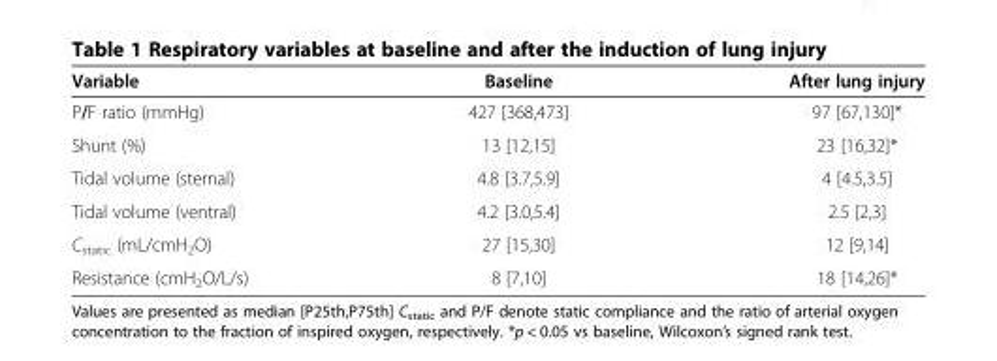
<table><thead><tr><td>Variable</td><td>Baseline</td><td>After lung injury</td></tr></thead><tbody><tr><td>P/F ratio (mmHg)</td><td>427 [368,473]</td><td>97 [67,130]*</td></tr><tr><td>Shunt (%)</td><td>13 [12,15]</td><td>23 [16,32]*</td></tr><tr><td>Tidal volume (sternal)</td><td>4.8 [3.7,5.9]</td><td>4 [4.5,3.5]</td></tr><tr><td>Tidal volume (ventral)</td><td>4.2 [3.0,5.4]</td><td>2.5 [2,3]</td></tr><tr><td>C<sub>static</sub> (mL/cmH<sub>2</sub>O)</td><td>27 [15,30]</td><td>12 [9,14]</td></tr><tr><td>Resistance (cmH<sub>2</sub>O/L/s)</td><td>8 [7,10]</td><td>18 [14,26]*</td></tr></tbody></table>